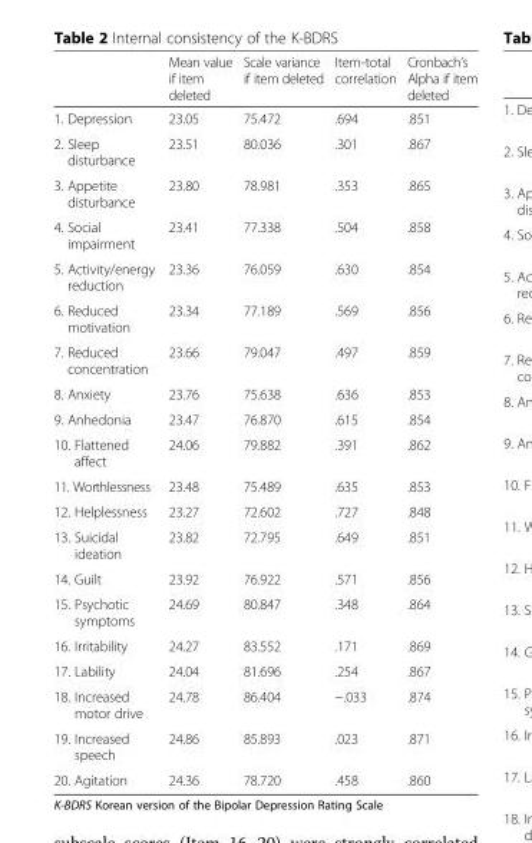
<table><thead><tr><td></td><td>Mean value if item deleted</td><td>Scale variance if item deleted</td><td>Item-total correlation</td><td>Cronbach’s Alpha if item deleted</td></tr></thead><tbody><tr><td>1. Depression</td><td>23.05</td><td>75.472</td><td>.694</td><td>.851</td></tr><tr><td>2. Sleep disturbance</td><td>23.51</td><td>80.036</td><td>.301</td><td>.867</td></tr><tr><td>3. Appetite disturbance</td><td>23.80</td><td>78.981</td><td>.353</td><td>.865</td></tr><tr><td>4. Social impairment</td><td>23.41</td><td>77.338</td><td>.504</td><td>.858</td></tr><tr><td>5. Activity/energy reduction</td><td>23.36</td><td>76.059</td><td>.630</td><td>.854</td></tr><tr><td>6. Reduced motivation</td><td>23.34</td><td>77.189</td><td>.569</td><td>.856</td></tr><tr><td>7. Reduced concentration</td><td>23.66</td><td>79.047</td><td>.497</td><td>.859</td></tr><tr><td>8. Anxiety</td><td>23.76</td><td>75.638</td><td>.636</td><td>.853</td></tr><tr><td>9. Anhedonia</td><td>23.47</td><td>76.870</td><td>.615</td><td>.854</td></tr><tr><td>10. Flattened affect</td><td>24.06</td><td>79.882</td><td>.391</td><td>.862</td></tr><tr><td>11. Worthlessness</td><td>23.48</td><td>75.489</td><td>.635</td><td>.853</td></tr><tr><td>12. Helplessness</td><td>23.27</td><td>72.602</td><td>.727</td><td>.848</td></tr><tr><td>13. Suicidal ideation</td><td>23.82</td><td>72.795</td><td>.649</td><td>.851</td></tr><tr><td>14. Guilt</td><td>23.92</td><td>76.922</td><td>.571</td><td>.856</td></tr><tr><td>15. Psychotic symptoms</td><td>24.69</td><td>80.847</td><td>.348</td><td>.864</td></tr><tr><td>16. Irritability</td><td>24.27</td><td>83.552</td><td>.171</td><td>.869</td></tr><tr><td>17. Lability</td><td>24.04</td><td>81.696</td><td>.254</td><td>.867</td></tr><tr><td>18. Increased motor drive</td><td>24.78</td><td>86.404</td><td>−.033</td><td>.874</td></tr><tr><td>19. Increased speech</td><td>24.86</td><td>85.893</td><td>.023</td><td>.871</td></tr><tr><td>20. Agitation</td><td>24.36</td><td>78.720</td><td>.458</td><td>.860</td></tr></tbody></table>